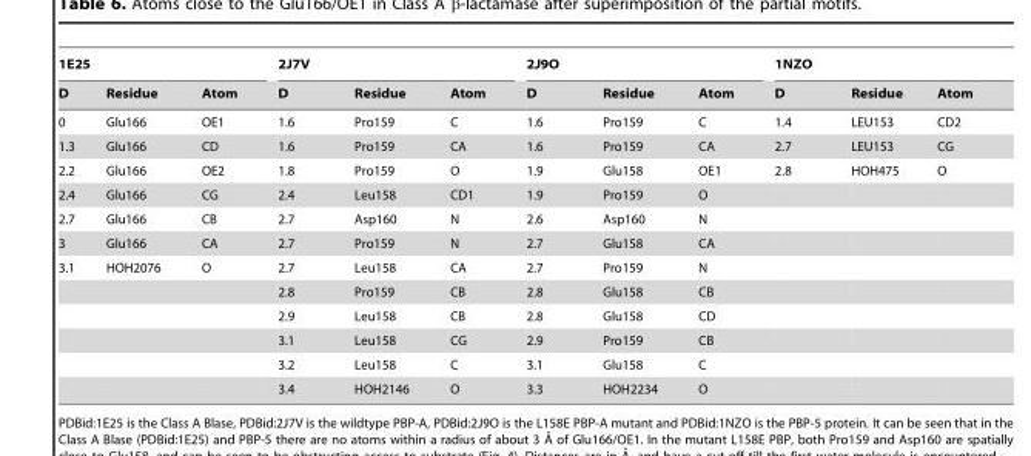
<table><thead><tr><td colspan="3">1E25</td><td colspan="3">2J7V</td><td colspan="3">2J9O</td><td colspan="3">1NZO</td></tr><tr><td>D</td><td>Residue</td><td>Atom</td><td>D</td><td>Residue</td><td>Atom</td><td>D</td><td>Residue</td><td>Atom</td><td>D</td><td>Residue</td><td>Atom</td></tr></thead><tbody><tr><td>0</td><td>Glu166</td><td>OE1</td><td>1.6</td><td>Pro159</td><td>C</td><td>1.6</td><td>Pro159</td><td>C</td><td>1.4</td><td>LEU153</td><td>CD2</td></tr><tr><td>1.3</td><td>Glu166</td><td>CD</td><td>1.6</td><td>Pro159</td><td>CA</td><td>1.6</td><td>Pro159</td><td>CA</td><td>2.7</td><td>LEU153</td><td>CG</td></tr><tr><td>2.2</td><td>Glu166</td><td>OE2</td><td>1.8</td><td>Pro159</td><td>O</td><td>1.9</td><td>Glu158</td><td>OE1</td><td>2.8</td><td>HOH475</td><td>O</td></tr><tr><td>2.4</td><td>Glu166</td><td>CG</td><td>2.4</td><td>Leu158</td><td>CD1</td><td>1.9</td><td>Pro159</td><td>O</td><td></td><td></td><td></td></tr><tr><td>2.7</td><td>Glu166</td><td>CB</td><td>2.7</td><td>Asp160</td><td>N</td><td>2.6</td><td>Asp160</td><td>N</td><td></td><td></td><td></td></tr><tr><td>3</td><td>Glu166</td><td>CA</td><td>2.7</td><td>Pro159</td><td>N</td><td>2.7</td><td>Glu158</td><td>CA</td><td></td><td></td><td></td></tr><tr><td rowspan="6">3.1</td><td>HOH2076</td><td>O</td><td>2.7</td><td>Leu158</td><td>CA</td><td>2.7</td><td>Pro159</td><td>N</td><td></td><td></td><td></td></tr><tr><td></td><td></td><td>2.8</td><td>Pro159</td><td>CB</td><td>2.8</td><td>Glu158</td><td>CB</td><td></td><td></td><td></td></tr><tr><td></td><td></td><td>2.9</td><td>Leu158</td><td>CB</td><td>2.8</td><td>Glu158</td><td>CD</td><td></td><td></td><td></td></tr><tr><td></td><td></td><td>3.1</td><td>Leu158</td><td>CG</td><td>2.9</td><td>Pro159</td><td>CB</td><td></td><td></td><td></td></tr><tr><td></td><td></td><td>3.2</td><td>Leu158</td><td>C</td><td>3.1</td><td>Glu158</td><td>C</td><td></td><td></td><td></td></tr><tr><td></td><td></td><td>3.4</td><td>HOH2146</td><td>O</td><td>3.3</td><td>HOH2234</td><td>O</td><td></td><td></td><td></td></tr></tbody></table>